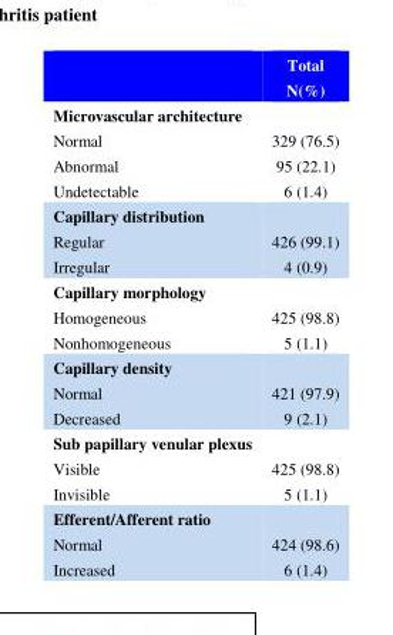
<table><thead><tr><td></td><td>Total N(%)</td></tr></thead><tbody><tr><td colspan="2">Microvascular architecture</td></tr><tr><td>Normal Abnormal Undetectable</td><td>329 (76.5) 95 (22.1) 6 (1.4)</td></tr><tr><td colspan="2">Capillary distribution</td></tr><tr><td>Regular Irregular</td><td>426 (99.1) 4 (0.9)</td></tr><tr><td colspan="2">Capillary morphology</td></tr><tr><td>Homogeneous Nonhomogeneous</td><td>425 (98.8) 5 (1.1)</td></tr><tr><td colspan="2">Capillary density</td></tr><tr><td>Normal Decreased</td><td>421 (97.9) 9 (2.1)</td></tr><tr><td colspan="2">Sub papillary venular plexus</td></tr><tr><td>Visible Invisible</td><td>425 (98.8) 5 (1.1)</td></tr><tr><td colspan="2">Efferent/Afferent ratio</td></tr><tr><td>Normal Increased</td><td>424 (98.6) 6 (1.4)</td></tr></tbody></table>